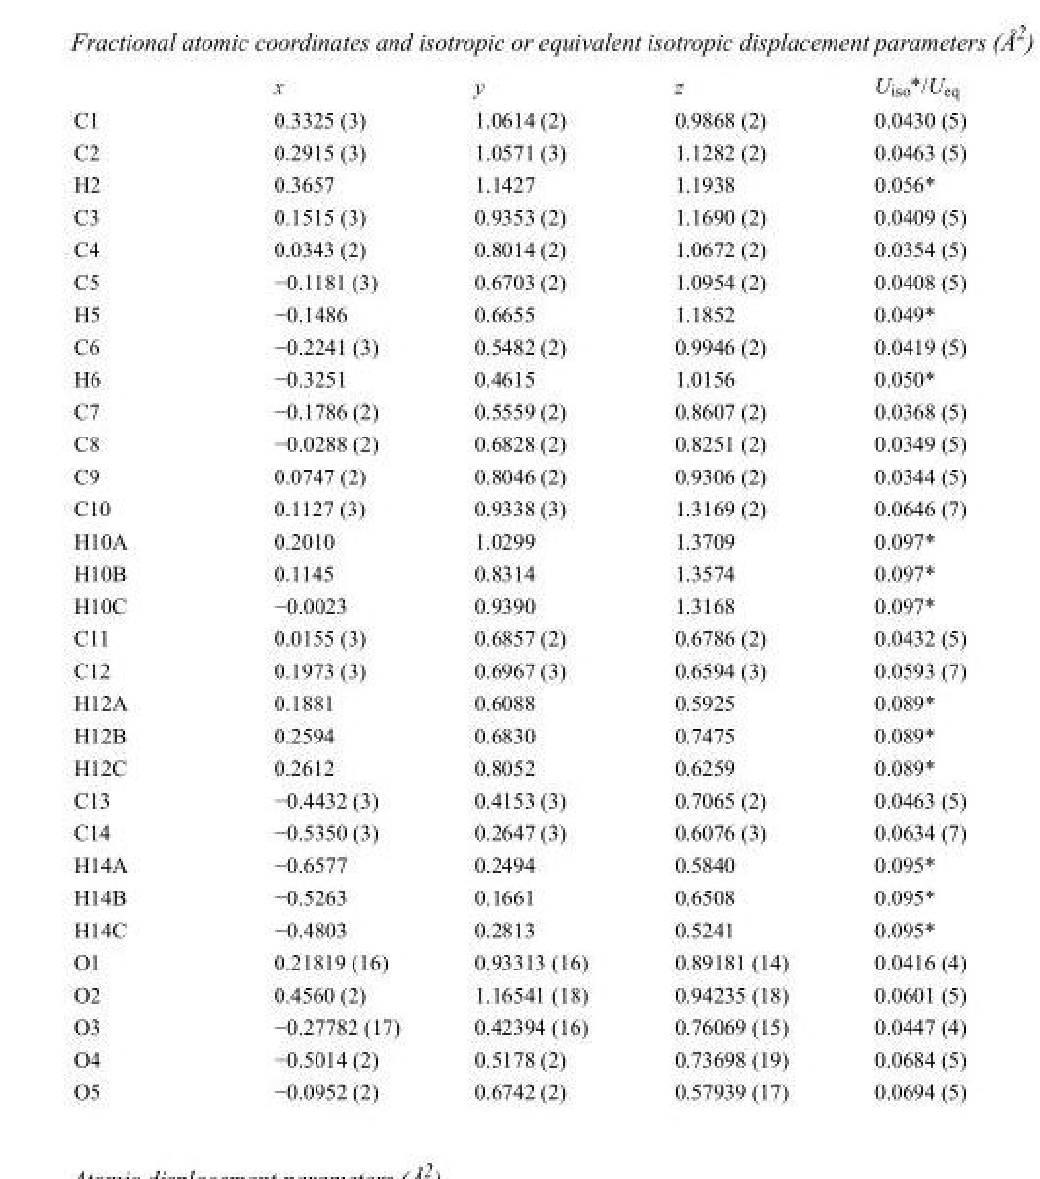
<table><thead><tr><td></td><td>x</td><td>y</td><td>z</td><td>U<sub>iso</sub>*/U<sub>eq</sub></td></tr></thead><tbody><tr><td>C1</td><td>0.3325 (3)</td><td>1.0614 (2)</td><td>0.9868 (2)</td><td>0.0430 (5)</td></tr><tr><td>C2</td><td>0.2915 (3)</td><td>1.0571 (3)</td><td>1.1282 (2)</td><td>0.0463 (5)</td></tr><tr><td>H2</td><td>0.3657</td><td>1.1427</td><td>1.1938</td><td>0.056*</td></tr><tr><td>C3</td><td>0.1515 (3)</td><td>0.9353 (2)</td><td>1.1690 (2)</td><td>0.0409 (5)</td></tr><tr><td>C4</td><td>0.0343 (2)</td><td>0.8014 (2)</td><td>1.0672 (2)</td><td>0.0354 (5)</td></tr><tr><td>C5</td><td>−0.1181 (3)</td><td>0.6703 (2)</td><td>1.0954 (2)</td><td>0.0408 (5)</td></tr><tr><td>H5</td><td>−0.1486</td><td>0.6655</td><td>1.1852</td><td>0.049*</td></tr><tr><td>C6</td><td>−0.2241 (3)</td><td>0.5482 (2)</td><td>0.9946 (2)</td><td>0.0419 (5)</td></tr><tr><td>H6</td><td>−0.3251</td><td>0.4615</td><td>1.0156</td><td>0.050*</td></tr><tr><td>C7</td><td>−0.1786 (2)</td><td>0.5559 (2)</td><td>0.8607 (2)</td><td>0.0368 (5)</td></tr><tr><td>C8</td><td>−0.0288 (2)</td><td>0.6828 (2)</td><td>0.8251 (2)</td><td>0.0349 (5)</td></tr><tr><td>C9</td><td>0.0747 (2)</td><td>0.8046 (2)</td><td>0.9306 (2)</td><td>0.0344 (5)</td></tr><tr><td>C10</td><td>0.1127 (3)</td><td>0.9338 (3)</td><td>1.3169 (2)</td><td>0.0646 (7)</td></tr><tr><td>H10A</td><td>0.2010</td><td>1.0299</td><td>1.3709</td><td>0.097*</td></tr><tr><td>H10B</td><td>0.1145</td><td>0.8314</td><td>1.3574</td><td>0.097*</td></tr><tr><td>H10C</td><td>−0.0023</td><td>0.9390</td><td>1.3168</td><td>0.097*</td></tr><tr><td>C11</td><td>0.0155 (3)</td><td>0.6857 (2)</td><td>0.6786 (2)</td><td>0.0432 (5)</td></tr><tr><td>C12</td><td>0.1973 (3)</td><td>0.6967 (3)</td><td>0.6594 (3)</td><td>0.0593 (7)</td></tr><tr><td>H12A</td><td>0.1881</td><td>0.6088</td><td>0.5925</td><td>0.089*</td></tr><tr><td>H12B</td><td>0.2594</td><td>0.6830</td><td>0.7475</td><td>0.089*</td></tr><tr><td>H12C</td><td>0.2612</td><td>0.8052</td><td>0.6259</td><td>0.089*</td></tr><tr><td>C13</td><td>−0.4432 (3)</td><td>0.4153 (3)</td><td>0.7065 (2)</td><td>0.0463 (5)</td></tr><tr><td>C14</td><td>−0.5350 (3)</td><td>0.2647 (3)</td><td>0.6076 (3)</td><td>0.0634 (7)</td></tr><tr><td>H14A</td><td>−0.6577</td><td>0.2494</td><td>0.5840</td><td>0.095*</td></tr><tr><td>H14B</td><td>−0.5263</td><td>0.1661</td><td>0.6508</td><td>0.095*</td></tr><tr><td>H14C</td><td>−0.4803</td><td>0.2813</td><td>0.5241</td><td>0.095*</td></tr><tr><td>O1</td><td>0.21819 (16)</td><td>0.93313 (16)</td><td>0.89181 (14)</td><td>0.0416 (4)</td></tr><tr><td>O2</td><td>0.4560 (2)</td><td>1.16541 (18)</td><td>0.94235 (18)</td><td>0.0601 (5)</td></tr><tr><td>O3</td><td>−0.27782 (17)</td><td>0.42394 (16)</td><td>0.76069 (15)</td><td>0.0447 (4)</td></tr><tr><td>O4</td><td>−0.5014 (2)</td><td>0.5178 (2)</td><td>0.73698 (19)</td><td>0.0684 (5)</td></tr><tr><td>O5</td><td>−0.0952 (2)</td><td>0.6742 (2)</td><td>0.57939 (17)</td><td>0.0694 (5)</td></tr></tbody></table>